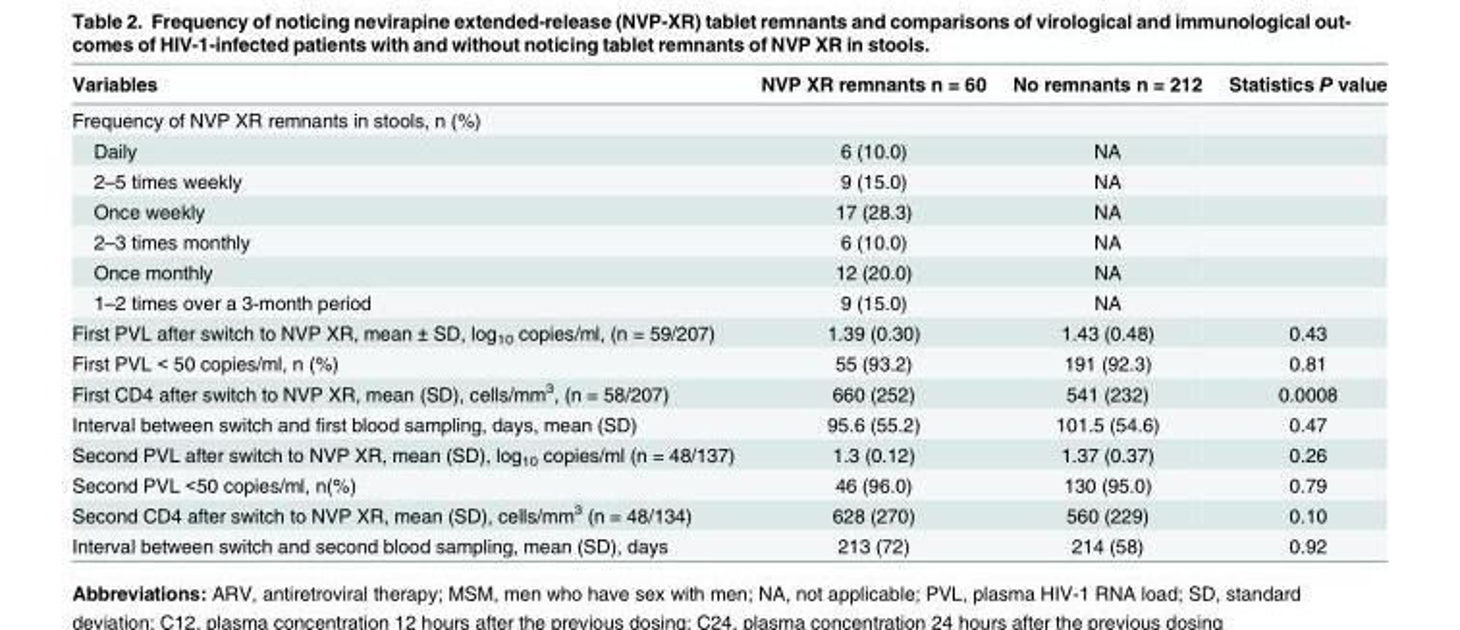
<table><thead><tr><td>Variables</td><td>NVP XR remnants n = 60</td><td>No remnants n = 212</td><td>Statistics P value</td></tr></thead><tbody><tr><td colspan="4">Frequency of NVP XR remnants in stools, n (%)</td></tr><tr><td>Daily</td><td>6 (10.0)</td><td>NA</td><td></td></tr><tr><td>2–5 times weekly</td><td>9 (15.0)</td><td>NA</td><td></td></tr><tr><td>Once weekly</td><td>17 (28.3)</td><td>NA</td><td></td></tr><tr><td>2–3 times monthly</td><td>6 (10.0)</td><td>NA</td><td></td></tr><tr><td>Once monthly</td><td>12 (20.0)</td><td>NA</td><td></td></tr><tr><td>1–2 times over a 3-month period</td><td>9 (15.0)</td><td>NA</td><td></td></tr><tr><td>First PVL after switch to NVP XR, mean ± SD, log<sub>10</sub> copies/ml, (n = 59/207)</td><td>1.39 (0.30)</td><td>1.43 (0.48)</td><td>0.43</td></tr><tr><td>First PVL &lt; 50 copies/ml, n (%)</td><td>55 (93.2)</td><td>191 (92.3)</td><td>0.81</td></tr><tr><td>First CD4 after switch to NVP XR, mean (SD), cells/mm<sup>3</sup>, (n = 58/207)</td><td>660 (252)</td><td>541 (232)</td><td>0.0008</td></tr><tr><td>Interval between switch and first blood sampling, days, mean (SD)</td><td>95.6 (55.2)</td><td>101.5 (54.6)</td><td>0.47</td></tr><tr><td>Second PVL after switch to NVP XR, mean (SD), log<sub>10</sub> copies/ml (n = 48/137)</td><td>1.3 (0.12)</td><td>1.37 (0.37)</td><td>0.26</td></tr><tr><td>Second PVL &lt;50 copies/ml, n(%)</td><td>46 (96.0)</td><td>130 (95.0)</td><td>0.79</td></tr><tr><td>Second CD4 after switch to NVP XR, mean (SD), cells/mm<sup>3</sup> (n = 48/134)</td><td>628 (270)</td><td>560 (229)</td><td>0.10</td></tr><tr><td>Interval between switch and second blood sampling, mean (SD), days</td><td>213 (72)</td><td>214 (58)</td><td>0.92</td></tr></tbody></table>